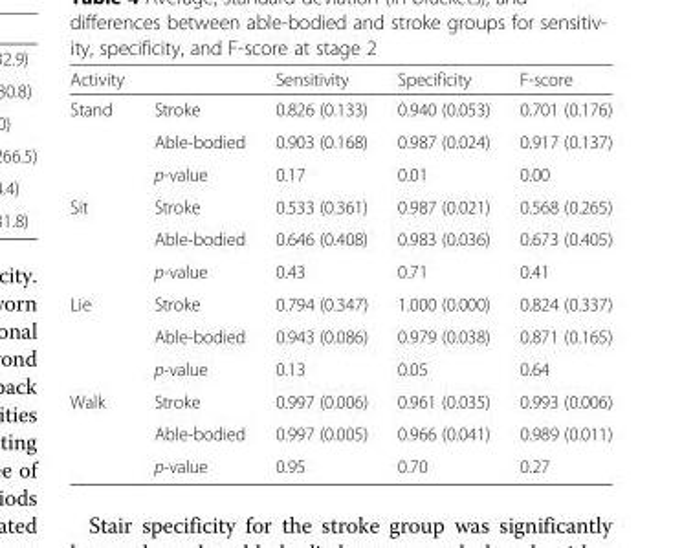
<table><thead><tr><td>Activity</td><td></td><td>Sensitivity</td><td>Specificity</td><td>F-score</td></tr></thead><tbody><tr><td rowspan="3">Stand</td><td>Stroke</td><td>0.826 (0.133)</td><td>0.940 (0.053)</td><td>0.701 (0.176)</td></tr><tr><td>Able-bodied</td><td>0.903 (0.168)</td><td>0.987 (0.024)</td><td>0.917 (0.137)</td></tr><tr><td>p-value</td><td>0.17</td><td>0.01</td><td>0.00</td></tr><tr><td rowspan="3">Sit</td><td>Stroke</td><td>0.533 (0.361)</td><td>0.987 (0.021)</td><td>0.568 (0.265)</td></tr><tr><td>Able-bodied</td><td>0.646 (0.408)</td><td>0.983 (0.036)</td><td>0.673 (0.405)</td></tr><tr><td>p-value</td><td>0.43</td><td>0.71</td><td>0.41</td></tr><tr><td rowspan="3">Lie</td><td>Stroke</td><td>0.794 (0.347)</td><td>1.000 (0.000)</td><td>0.824 (0.337)</td></tr><tr><td>Able-bodied</td><td>0.943 (0.086)</td><td>0.979 (0.038)</td><td>0.871 (0.165)</td></tr><tr><td>p-value</td><td>0.13</td><td>0.05</td><td>0.64</td></tr><tr><td rowspan="3">Walk</td><td>Stroke</td><td>0.997 (0.006)</td><td>0.961 (0.035)</td><td>0.993 (0.006)</td></tr><tr><td>Able-bodied</td><td>0.997 (0.005)</td><td>0.966 (0.041)</td><td>0.989 (0.011)</td></tr><tr><td>p-value</td><td>0.95</td><td>0.70</td><td>0.27</td></tr></tbody></table>